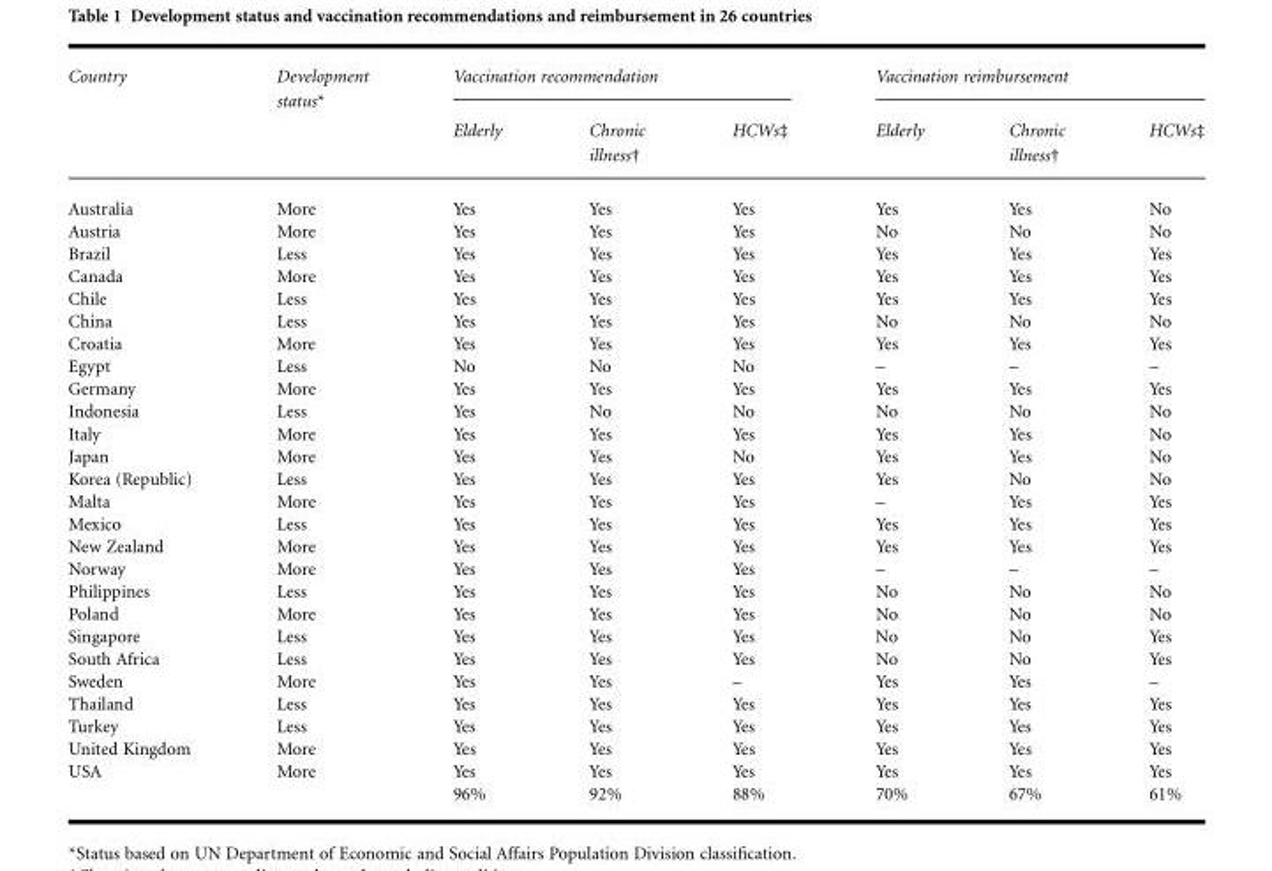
<table><thead><tr><td rowspan="2">Country</td><td rowspan="2">Development status*</td><td colspan="3">Vaccination recommendation</td><td colspan="3">Vaccination reimbursement</td></tr><tr><td>Elderly</td><td>Chronic illness†</td><td>HCWs‡</td><td>Elderly</td><td>Chronic illness†</td><td>HCWs‡</td></tr></thead><tbody><tr><td>Australia</td><td>More</td><td>Yes</td><td>Yes</td><td>Yes</td><td>Yes</td><td>Yes</td><td>No</td></tr><tr><td>Austria</td><td>More</td><td>Yes</td><td>Yes</td><td>Yes</td><td>No</td><td>No</td><td>No</td></tr><tr><td>Brazil</td><td>Less</td><td>Yes</td><td>Yes</td><td>Yes</td><td>Yes</td><td>Yes</td><td>Yes</td></tr><tr><td>Canada</td><td>More</td><td>Yes</td><td>Yes</td><td>Yes</td><td>Yes</td><td>Yes</td><td>Yes</td></tr><tr><td>Chile</td><td>Less</td><td>Yes</td><td>Yes</td><td>Yes</td><td>Yes</td><td>Yes</td><td>Yes</td></tr><tr><td>China</td><td>Less</td><td>Yes</td><td>Yes</td><td>Yes</td><td>No</td><td>No</td><td>No</td></tr><tr><td>Croatia</td><td>More</td><td>Yes</td><td>Yes</td><td>Yes</td><td>Yes</td><td>Yes</td><td>Yes</td></tr><tr><td>Egypt</td><td>Less</td><td>No</td><td>No</td><td>No</td><td>–</td><td>–</td><td>–</td></tr><tr><td>Germany</td><td>More</td><td>Yes</td><td>Yes</td><td>Yes</td><td>Yes</td><td>Yes</td><td>Yes</td></tr><tr><td>Indonesia</td><td>Less</td><td>Yes</td><td>No</td><td>No</td><td>No</td><td>No</td><td>No</td></tr><tr><td>Italy</td><td>More</td><td>Yes</td><td>Yes</td><td>Yes</td><td>Yes</td><td>Yes</td><td>No</td></tr><tr><td>Japan</td><td>More</td><td>Yes</td><td>Yes</td><td>No</td><td>Yes</td><td>Yes</td><td>No</td></tr><tr><td>Korea (Republic)</td><td>Less</td><td>Yes</td><td>Yes</td><td>Yes</td><td>Yes</td><td>No</td><td>No</td></tr><tr><td>Malta</td><td>More</td><td>Yes</td><td>Yes</td><td>Yes</td><td>–</td><td>Yes</td><td>Yes</td></tr><tr><td>Mexico</td><td>Less</td><td>Yes</td><td>Yes</td><td>Yes</td><td>Yes</td><td>Yes</td><td>Yes</td></tr><tr><td>New Zealand</td><td>More</td><td>Yes</td><td>Yes</td><td>Yes</td><td>Yes</td><td>Yes</td><td>Yes</td></tr><tr><td>Norway</td><td>More</td><td>Yes</td><td>Yes</td><td>Yes</td><td>–</td><td>–</td><td>–</td></tr><tr><td>Philippines</td><td>Less</td><td>Yes</td><td>Yes</td><td>Yes</td><td>No</td><td>No</td><td>No</td></tr><tr><td>Poland</td><td>More</td><td>Yes</td><td>Yes</td><td>Yes</td><td>No</td><td>No</td><td>No</td></tr><tr><td>Singapore</td><td>Less</td><td>Yes</td><td>Yes</td><td>Yes</td><td>No</td><td>No</td><td>Yes</td></tr><tr><td>South Africa</td><td>Less</td><td>Yes</td><td>Yes</td><td>Yes</td><td>No</td><td>No</td><td>Yes</td></tr><tr><td>Sweden</td><td>More</td><td>Yes</td><td>Yes</td><td>–</td><td>Yes</td><td>Yes</td><td>–</td></tr><tr><td>Thailand</td><td>Less</td><td>Yes</td><td>Yes</td><td>Yes</td><td>Yes</td><td>Yes</td><td>Yes</td></tr><tr><td>Turkey</td><td>Less</td><td>Yes</td><td>Yes</td><td>Yes</td><td>Yes</td><td>Yes</td><td>Yes</td></tr><tr><td>United Kingdom</td><td>More</td><td>Yes</td><td>Yes</td><td>Yes</td><td>Yes</td><td>Yes</td><td>Yes</td></tr><tr><td rowspan="2">USA</td><td>More</td><td>Yes</td><td>Yes</td><td>Yes</td><td>Yes</td><td>Yes</td><td>Yes</td></tr><tr><td></td><td>96%</td><td>92%</td><td>88%</td><td>70%</td><td>67%</td><td>61%</td></tr></tbody></table>